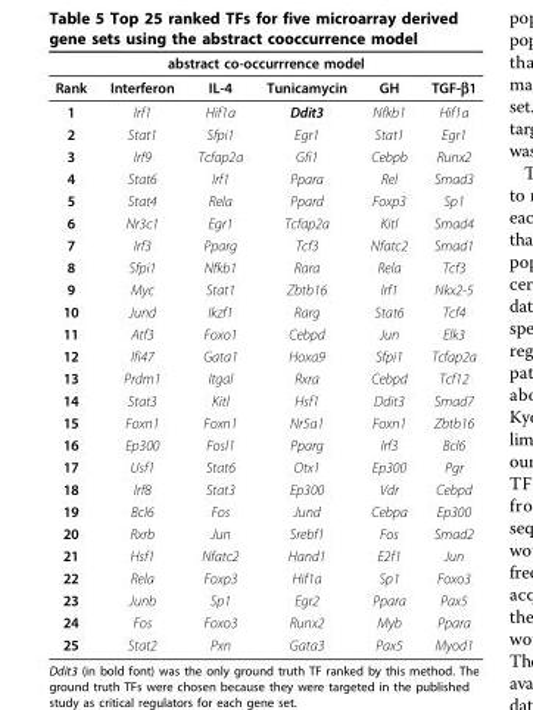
<table><thead><tr><td colspan="6">abstract co-occurrrence model</td></tr><tr><td>Rank</td><td>Interferon</td><td>IL-4</td><td>Tunicamycin</td><td>GH</td><td>TGF-β1</td></tr></thead><tbody><tr><td>1</td><td>Irf1</td><td>Hif1a</td><td>Ddit3</td><td>Nfkb1</td><td>Hif1a</td></tr><tr><td>2</td><td>Stat1</td><td>Sfpi1</td><td>Egr1</td><td>Stat1</td><td>Egr1</td></tr><tr><td>3</td><td>Irf9</td><td>Tcfap2a</td><td>Gfi1</td><td>Cebpb</td><td>Runx2</td></tr><tr><td>4</td><td>Stat6</td><td>Irf1</td><td>Ppara</td><td>Rel</td><td>Smad3</td></tr><tr><td>5</td><td>Stat4</td><td>Rela</td><td>Ppard</td><td>Foxp3</td><td>Sp1</td></tr><tr><td>6</td><td>Nr3c1</td><td>Egr1</td><td>Tcfap2a</td><td>Kitl</td><td>Smad4</td></tr><tr><td>7</td><td>Irf3</td><td>Pparg</td><td>Tcf3</td><td>Nfatc2</td><td>Smad1</td></tr><tr><td>8</td><td>Sfpi1</td><td>Nfkb1</td><td>Rara</td><td>Rela</td><td>Tcf3</td></tr><tr><td>9</td><td>Myc</td><td>Stat1</td><td>Zbtb16</td><td>Irf1</td><td>Nkx2-5</td></tr><tr><td>10</td><td>Jund</td><td>Ikzf1</td><td>Rarg</td><td>Stat6</td><td>Tcf4</td></tr><tr><td>11</td><td>Atf3</td><td>Foxo1</td><td>Cebpd</td><td>Jun</td><td>Elk3</td></tr><tr><td>12</td><td>Ifi47</td><td>Gata1</td><td>Hoxa9</td><td>Sfpi1</td><td>Tcfap2a</td></tr><tr><td>13</td><td>Prdm1</td><td>Itgal</td><td>Rxra</td><td>Cebpd</td><td>Tcf12</td></tr><tr><td>14</td><td>Stat3</td><td>Kitl</td><td>Hsf1</td><td>Ddit3</td><td>Smad7</td></tr><tr><td>15</td><td>Foxn1</td><td>Foxn1</td><td>Nr5a1</td><td>Foxn1</td><td>Zbtb16</td></tr><tr><td>16</td><td>Ep300</td><td>Fosl1</td><td>Pparg</td><td>Irf3</td><td>Bcl6</td></tr><tr><td>17</td><td>Usf1</td><td>Stat6</td><td>Otx1</td><td>Ep300</td><td>Pgr</td></tr><tr><td>18</td><td>Irf8</td><td>Stat3</td><td>Ep300</td><td>Vdr</td><td>Cebpd</td></tr><tr><td>19</td><td>Bcl6</td><td>Fos</td><td>Jund</td><td>Cebpa</td><td>Ep300</td></tr><tr><td>20</td><td>Rxrb</td><td>Jun</td><td>Srebf1</td><td>Fos</td><td>Smad2</td></tr><tr><td>21</td><td>Hsf1</td><td>Nfatc2</td><td>Hand1</td><td>E2f1</td><td>Jun</td></tr><tr><td>22</td><td>Rela</td><td>Foxp3</td><td>Hif1a</td><td>Sp1</td><td>Foxo3</td></tr><tr><td>23</td><td>Junb</td><td>Sp1</td><td>Egr2</td><td>Ppara</td><td>Pax5</td></tr><tr><td>24</td><td>Fos</td><td>Foxo3</td><td>Runx2</td><td>Myb</td><td>Ppara</td></tr><tr><td>25</td><td>Stat2</td><td>Pxn</td><td>Gata3</td><td>Pax5</td><td>Myod1</td></tr></tbody></table>